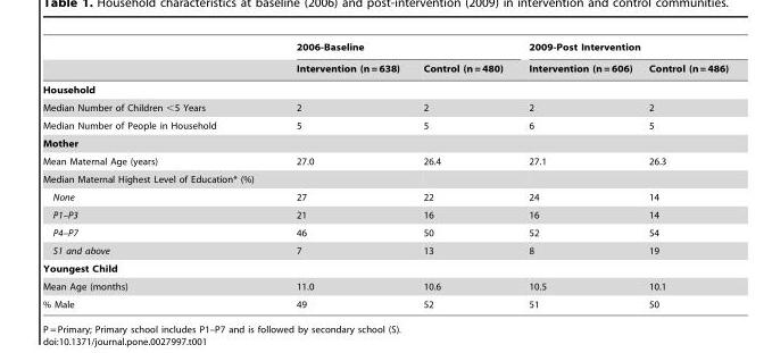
<table><thead><tr><td rowspan="2"></td><td colspan="2">2006-Baseline</td><td colspan="2">2009-Post Intervention</td></tr><tr><td>Intervention (n = 638)</td><td>Control (n = 480)</td><td>Intervention (n = 606)</td><td>Control (n = 486)</td></tr></thead><tbody><tr><td colspan="5">Household</td></tr><tr><td>Median Number of Children &lt;5 Years</td><td>2</td><td>2</td><td>2</td><td>2</td></tr><tr><td>Median Number of People in Household</td><td>5</td><td>5</td><td>6</td><td>5</td></tr><tr><td colspan="5">Mother</td></tr><tr><td>Mean Maternal Age (years)</td><td>27.0</td><td>26.4</td><td>27.1</td><td>26.3</td></tr><tr><td colspan="5">Median Maternal Highest Level of Education* (%)</td></tr><tr><td>None</td><td>27</td><td>22</td><td>24</td><td>14</td></tr><tr><td>P1–P3</td><td>21</td><td>16</td><td>16</td><td>14</td></tr><tr><td>P4–P7</td><td>46</td><td>50</td><td>52</td><td>54</td></tr><tr><td>S1 and above</td><td>7</td><td>13</td><td>8</td><td>19</td></tr><tr><td colspan="5">Youngest Child</td></tr><tr><td>Mean Age (months)</td><td>11.0</td><td>10.6</td><td>10.5</td><td>10.1</td></tr><tr><td>% Male</td><td>49</td><td>52</td><td>51</td><td>50</td></tr></tbody></table>